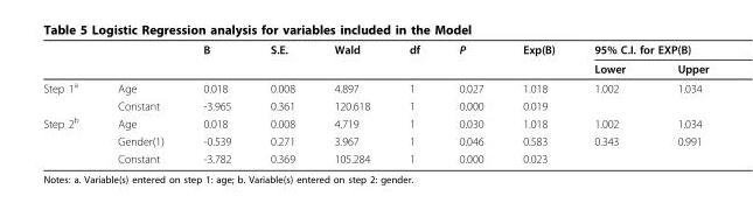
<table><thead><tr><td rowspan="2"></td><td rowspan="2"></td><td rowspan="2">B</td><td rowspan="2">S.E.</td><td rowspan="2">Wald</td><td rowspan="2">df</td><td rowspan="2">P</td><td rowspan="2">Exp(B)</td><td colspan="2">95% C.I. for EXP(B)</td></tr><tr><td>Lower</td><td>Upper</td></tr></thead><tbody><tr><td rowspan="2">Step 1<sup>a</sup></td><td>Age</td><td>0.018</td><td>0.008</td><td>4.897</td><td>1</td><td>0.027</td><td>1.018</td><td>1.002</td><td>1.034</td></tr><tr><td>Constant</td><td>-3.965</td><td>0.361</td><td>120.618</td><td>1</td><td>0.000</td><td>0.019</td><td></td><td></td></tr><tr><td rowspan="3">Step 2<sup>b</sup></td><td>Age</td><td>0.018</td><td>0.008</td><td>4.719</td><td>1</td><td>0.030</td><td>1.018</td><td>1.002</td><td>1.034</td></tr><tr><td>Gender(1)</td><td>-0.539</td><td>0.271</td><td>3.967</td><td>1</td><td>0.046</td><td>0.583</td><td>0.343</td><td>0.991</td></tr><tr><td>Constant</td><td>-3.782</td><td>0.369</td><td>105.284</td><td>1</td><td>0.000</td><td>0.023</td><td></td><td></td></tr></tbody></table>